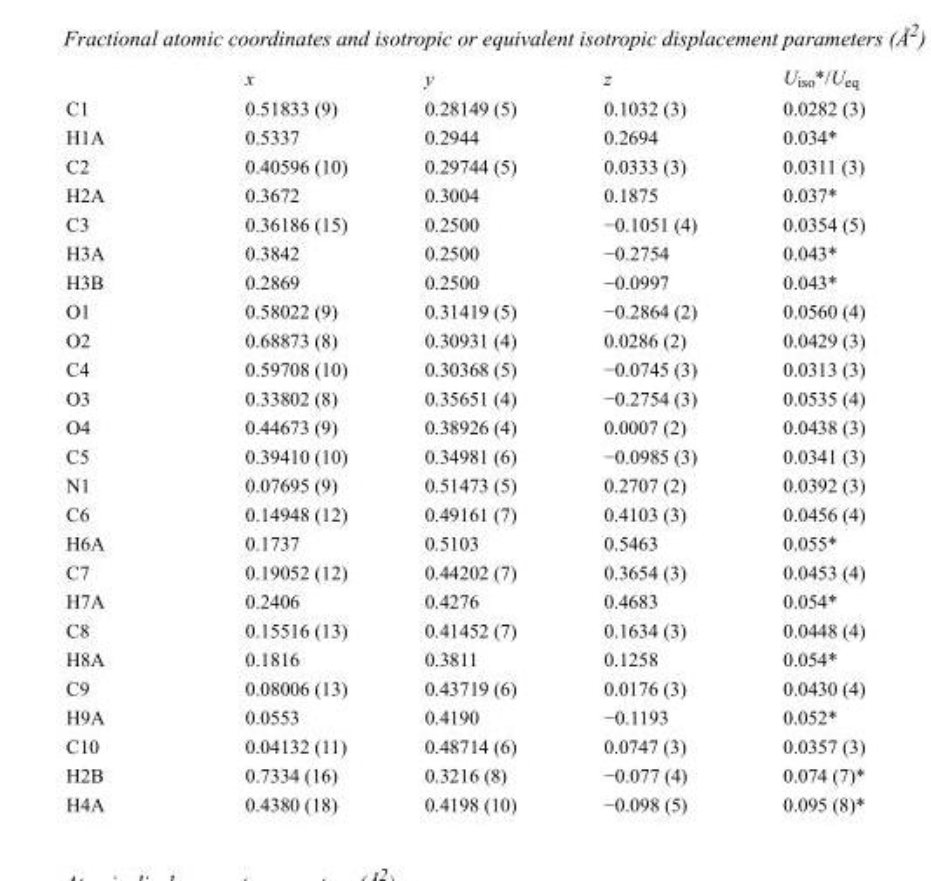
<table><thead><tr><td></td><td>x</td><td>y</td><td>z</td><td>U<sub>iso</sub>*/U<sub>eq</sub></td></tr></thead><tbody><tr><td>C1</td><td>0.51833 (9)</td><td>0.28149 (5)</td><td>0.1032 (3)</td><td>0.0282 (3)</td></tr><tr><td>H1A</td><td>0.5337</td><td>0.2944</td><td>0.2694</td><td>0.034*</td></tr><tr><td>C2</td><td>0.40596 (10)</td><td>0.29744 (5)</td><td>0.0333 (3)</td><td>0.0311 (3)</td></tr><tr><td>H2A</td><td>0.3672</td><td>0.3004</td><td>0.1875</td><td>0.037*</td></tr><tr><td>C3</td><td>0.36186 (15)</td><td>0.2500</td><td>−0.1051 (4)</td><td>0.0354 (5)</td></tr><tr><td>H3A</td><td>0.3842</td><td>0.2500</td><td>−0.2754</td><td>0.043*</td></tr><tr><td>H3B</td><td>0.2869</td><td>0.2500</td><td>−0.0997</td><td>0.043*</td></tr><tr><td>O1</td><td>0.58022 (9)</td><td>0.31419 (5)</td><td>−0.2864 (2)</td><td>0.0560 (4)</td></tr><tr><td>O2</td><td>0.68873 (8)</td><td>0.30931 (4)</td><td>0.0286 (2)</td><td>0.0429 (3)</td></tr><tr><td>C4</td><td>0.59708 (10)</td><td>0.30368 (5)</td><td>−0.0745 (3)</td><td>0.0313 (3)</td></tr><tr><td>O3</td><td>0.33802 (8)</td><td>0.35651 (4)</td><td>−0.2754 (3)</td><td>0.0535 (4)</td></tr><tr><td>O4</td><td>0.44673 (9)</td><td>0.38926 (4)</td><td>0.0007 (2)</td><td>0.0438 (3)</td></tr><tr><td>C5</td><td>0.39410 (10)</td><td>0.34981 (6)</td><td>−0.0985 (3)</td><td>0.0341 (3)</td></tr><tr><td>N1</td><td>0.07695 (9)</td><td>0.51473 (5)</td><td>0.2707 (2)</td><td>0.0392 (3)</td></tr><tr><td>C6</td><td>0.14948 (12)</td><td>0.49161 (7)</td><td>0.4103 (3)</td><td>0.0456 (4)</td></tr><tr><td>H6A</td><td>0.1737</td><td>0.5103</td><td>0.5463</td><td>0.055*</td></tr><tr><td>C7</td><td>0.19052 (12)</td><td>0.44202 (7)</td><td>0.3654 (3)</td><td>0.0453 (4)</td></tr><tr><td>H7A</td><td>0.2406</td><td>0.4276</td><td>0.4683</td><td>0.054*</td></tr><tr><td>C8</td><td>0.15516 (13)</td><td>0.41452 (7)</td><td>0.1634 (3)</td><td>0.0448 (4)</td></tr><tr><td>H8A</td><td>0.1816</td><td>0.3811</td><td>0.1258</td><td>0.054*</td></tr><tr><td>C9</td><td>0.08006 (13)</td><td>0.43719 (6)</td><td>0.0176 (3)</td><td>0.0430 (4)</td></tr><tr><td>H9A</td><td>0.0553</td><td>0.4190</td><td>−0.1193</td><td>0.052*</td></tr><tr><td>C10</td><td>0.04132 (11)</td><td>0.48714 (6)</td><td>0.0747 (3)</td><td>0.0357 (3)</td></tr><tr><td>H2B</td><td>0.7334 (16)</td><td>0.3216 (8)</td><td>−0.077 (4)</td><td>0.074 (7)*</td></tr><tr><td>H4A</td><td>0.4380 (18)</td><td>0.4198 (10)</td><td>−0.098 (5)</td><td>0.095 (8)*</td></tr></tbody></table>